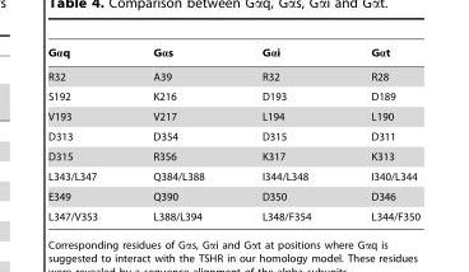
<table><thead><tr><td>Gαq</td><td>Gαs</td><td>Gαi</td><td>Gαt</td></tr></thead><tbody><tr><td>R32</td><td>A39</td><td>R32</td><td>R28</td></tr><tr><td>S192</td><td>K216</td><td>D193</td><td>D189</td></tr><tr><td>V193</td><td>V217</td><td>L194</td><td>L190</td></tr><tr><td>D313</td><td>D354</td><td>D315</td><td>D311</td></tr><tr><td>D315</td><td>R356</td><td>K317</td><td>K313</td></tr><tr><td>L343/L347</td><td>Q384/L388</td><td>I344/L348</td><td>I340/L344</td></tr><tr><td>E349</td><td>Q390</td><td>D350</td><td>D346</td></tr><tr><td>L347/V353</td><td>L388/L394</td><td>L348/F354</td><td>L344/F350</td></tr></tbody></table>